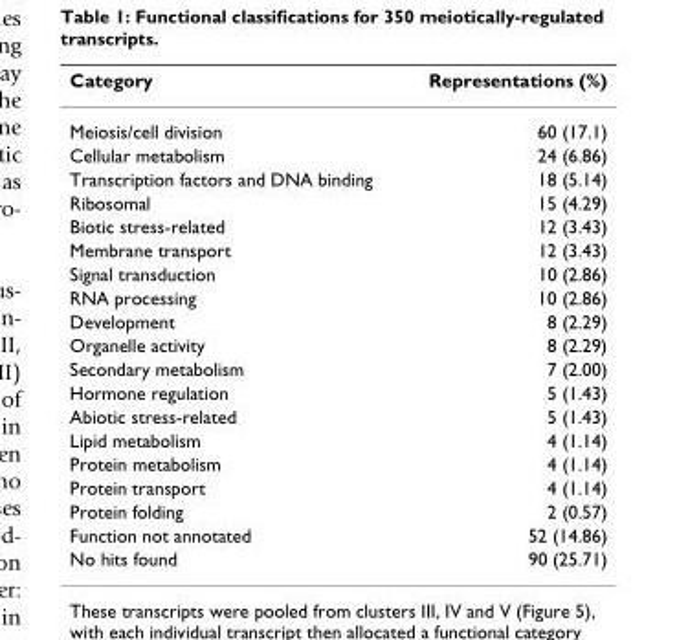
<table><thead><tr><td>Category</td><td>Representations (%)</td></tr></thead><tbody><tr><td>Meiosis/cell division</td><td>60 (17.1)</td></tr><tr><td>Cellular metabolism</td><td>24 (6.86)</td></tr><tr><td>Transcription factors and DNA binding</td><td>18 (5.14)</td></tr><tr><td>Ribosomal</td><td>15 (4.29)</td></tr><tr><td>Biotic stress-related</td><td>12 (3.43)</td></tr><tr><td>Membrane transport</td><td>12 (3.43)</td></tr><tr><td>Signal transduction</td><td>10 (2.86)</td></tr><tr><td>RNA processing</td><td>10 (2.86)</td></tr><tr><td>Development</td><td>8 (2.29)</td></tr><tr><td>Organelle activity</td><td>8 (2.29)</td></tr><tr><td>Secondary metabolism</td><td>7 (2.00)</td></tr><tr><td>Hormone regulation</td><td>5 (1.43)</td></tr><tr><td>Abiotic stress-related</td><td>5 (1.43)</td></tr><tr><td>Lipid metabolism</td><td>4 (1.14)</td></tr><tr><td>Protein metabolism</td><td>4 (1.14)</td></tr><tr><td>Protein transport</td><td>4 (1.14)</td></tr><tr><td>Protein folding</td><td>2 (0.57)</td></tr><tr><td>Function not annotated</td><td>52 (14.86)</td></tr><tr><td>No hits found</td><td>90 (25.71)</td></tr></tbody></table>